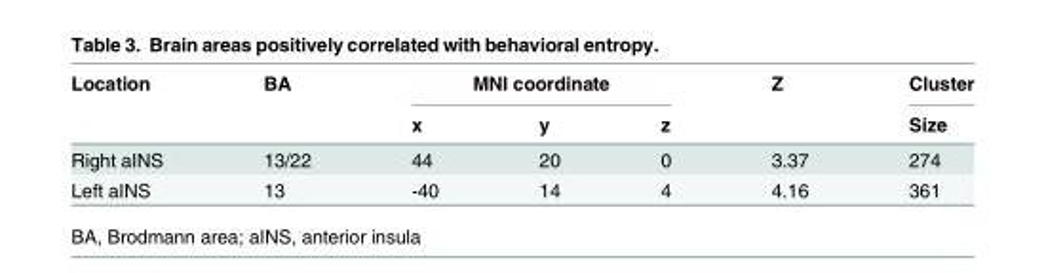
<table><thead><tr><td rowspan="2">Location</td><td rowspan="2">BA</td><td colspan="3">MNI coordinate</td><td rowspan="2">Z</td><td rowspan="2">Cluster Size</td></tr><tr><td>x</td><td>y</td><td>z</td></tr></thead><tbody><tr><td>Right aINS</td><td>13/22</td><td>44</td><td>20</td><td>0</td><td>3.37</td><td>274</td></tr><tr><td>Left aINS</td><td>13</td><td>-40</td><td>14</td><td>4</td><td>4.16</td><td>361</td></tr></tbody></table>